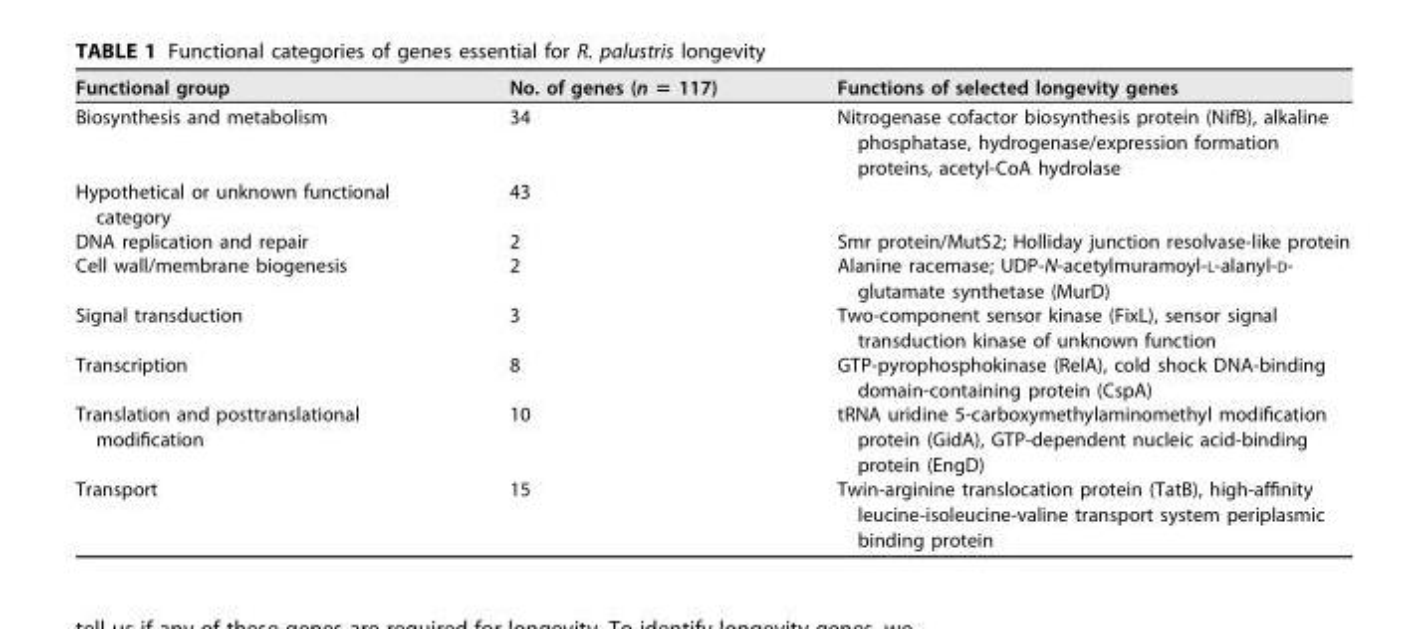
<table><thead><tr><td>Functional group</td><td>No. of genes (n = 117)</td><td>Functions of selected longevity genes</td></tr></thead><tbody><tr><td>Biosynthesis and metabolism</td><td>34</td><td>Nitrogenase cofactor biosynthesis protein (NifB), alkaline phosphatase, hydrogenase/expression formation proteins, acetyl-CoA hydrolase</td></tr><tr><td>Hypothetical or unknown functional category</td><td>43</td><td></td></tr><tr><td>DNA replication and repair</td><td>2</td><td>Smr protein/MutS2; Holliday junction resolvase-like protein</td></tr><tr><td>Cell wall/membrane biogenesis</td><td>2</td><td>Alanine racemase; UDP-N-acetylmuramoyl-L-alanyl-D- glutamate synthetase (MurD)</td></tr><tr><td>Signal transduction</td><td>3</td><td>Two-component sensor kinase (FixL), sensor signal transduction kinase of unknown function</td></tr><tr><td>Transcription</td><td>8</td><td>GTP-pyrophosphokinase (RelA), cold shock DNA-binding domain-containing protein (CspA)</td></tr><tr><td>Translation and posttranslational modification</td><td>10</td><td>tRNA uridine 5-carboxymethylaminomethyl modification protein (GidA), GTP-dependent nucleic acid-binding protein (EngD)</td></tr><tr><td>Transport</td><td>15</td><td>Twin-arginine translocation protein (TatB), high-affinity leucine-isoleucine-valine transport system periplasmic binding protein</td></tr></tbody></table>